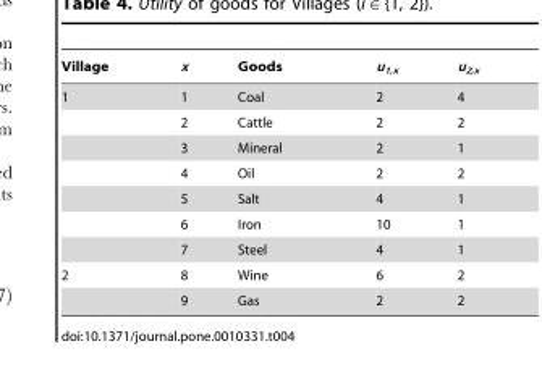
<table><thead><tr><td>Village</td><td>x</td><td>Goods</td><td>u<sub>1,x</sub></td><td>u<sub>2,x</sub></td></tr></thead><tbody><tr><td rowspan="7">1</td><td>1</td><td>Coal</td><td>2</td><td>4</td></tr><tr><td>2</td><td>Cattle</td><td>2</td><td>2</td></tr><tr><td>3</td><td>Mineral</td><td>2</td><td>1</td></tr><tr><td>4</td><td>Oil</td><td>2</td><td>2</td></tr><tr><td>5</td><td>Salt</td><td>4</td><td>1</td></tr><tr><td>6</td><td>Iron</td><td>10</td><td>1</td></tr><tr><td>7</td><td>Steel</td><td>4</td><td>1</td></tr><tr><td rowspan="2">2</td><td>8</td><td>Wine</td><td>6</td><td>2</td></tr><tr><td>9</td><td>Gas</td><td>2</td><td>2</td></tr></tbody></table>